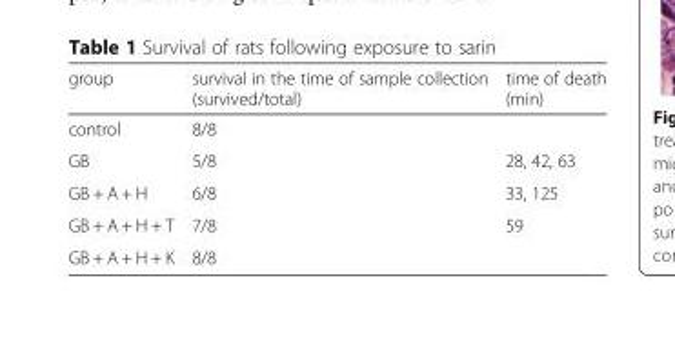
<table><thead><tr><td>group</td><td>survival in the time of sample collection (survived/total)</td><td>time of death (min)</td></tr></thead><tbody><tr><td>control</td><td>8/8</td><td></td></tr><tr><td>GB</td><td>5/8</td><td>28, 42, 63</td></tr><tr><td>GB + A + H</td><td>6/8</td><td>33, 125</td></tr><tr><td>GB + A + H + T</td><td>7/8</td><td>59</td></tr><tr><td>GB + A + H + K</td><td>8/8</td><td></td></tr></tbody></table>